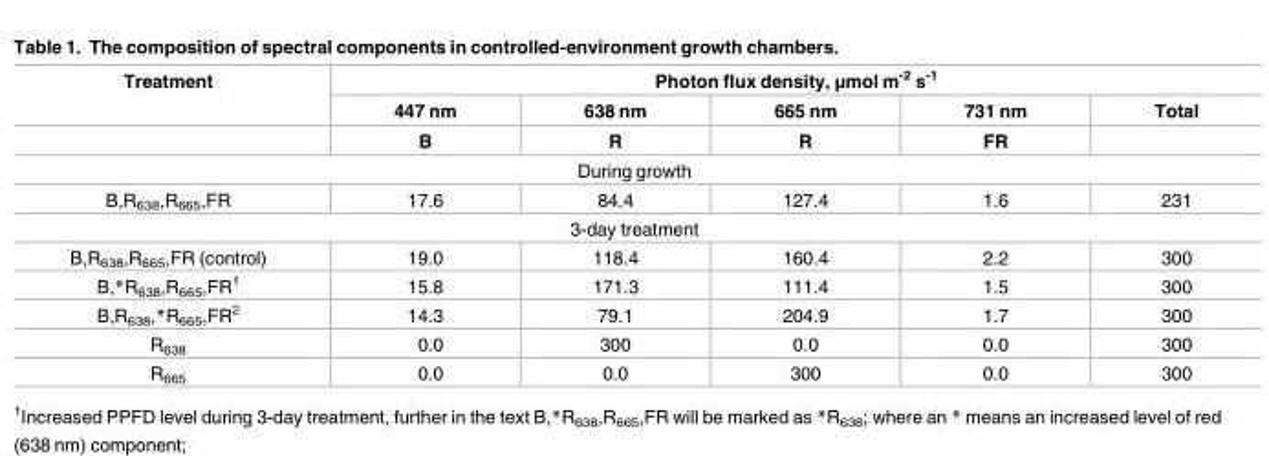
<table><thead><tr><td rowspan="3">Treatment</td><td colspan="5">Photon flux density, μmol m<sup>-2</sup> s<sup>-1</sup></td></tr><tr><td rowspan="2">447 nm B</td><td rowspan="2">638 nm R</td><td rowspan="2">665 nm R</td><td rowspan="2">731 nm FR</td><td rowspan="2">Total</td></tr><tr></tr></thead><tbody><tr><td colspan="6">During growth</td></tr><tr><td>B,R<sub>638</sub>,R<sub>665</sub>,FR</td><td>17.6</td><td>84.4</td><td>127.4</td><td>1.6</td><td>231</td></tr><tr><td colspan="6">3-day treatment</td></tr><tr><td>B,R<sub>638</sub>,R<sub>665</sub>,FR (control)</td><td>19.0</td><td>118.4</td><td>160.4</td><td>2.2</td><td>300</td></tr><tr><td>B,*R<sub>638</sub>,R<sub>665</sub>,FR<sup>1</sup></td><td>15.8</td><td>171.3</td><td>111.4</td><td>1.5</td><td>300</td></tr><tr><td>B,R<sub>638</sub>,*R<sub>665</sub>,FR<sup>2</sup></td><td>14.3</td><td>79.1</td><td>204.9</td><td>1.7</td><td>300</td></tr><tr><td>R<sub>638</sub></td><td>0.0</td><td>300</td><td>0.0</td><td>0.0</td><td>300</td></tr><tr><td>R<sub>665</sub></td><td>0.0</td><td>0.0</td><td>300</td><td>0.0</td><td>300</td></tr></tbody></table>